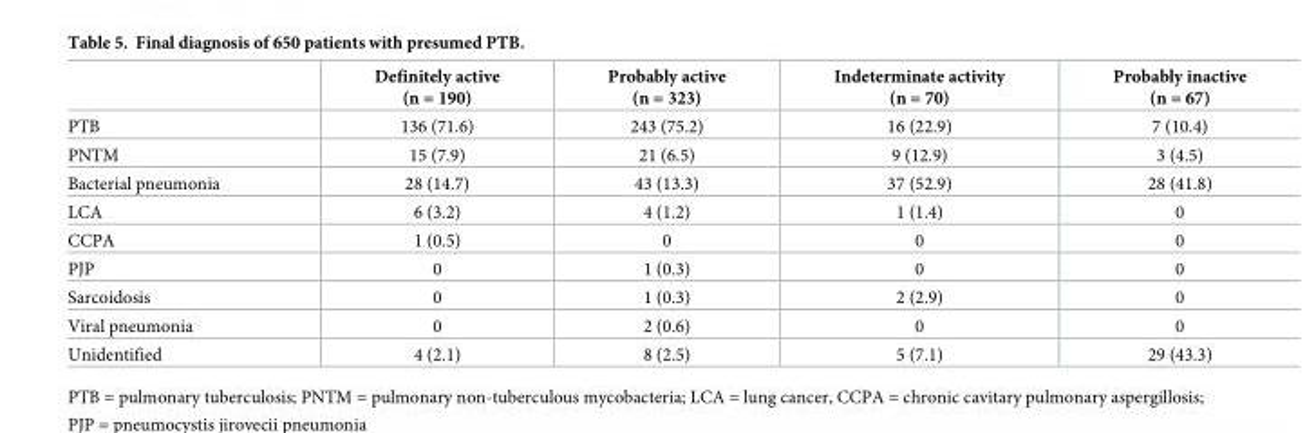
<table><thead><tr><td></td><td>Definitely active (n = 190)</td><td>Probably active (n = 323)</td><td>Indeterminate activity (n = 70)</td><td>Probably inactive (n = 67)</td></tr></thead><tbody><tr><td>PTB</td><td>136 (71.6)</td><td>243 (75.2)</td><td>16 (22.9)</td><td>7 (10.4)</td></tr><tr><td>PNTM</td><td>15 (7.9)</td><td>21 (6.5)</td><td>9 (12.9)</td><td>3 (4.5)</td></tr><tr><td>Bacterial pneumonia</td><td>28 (14.7)</td><td>43 (13.3)</td><td>37 (52.9)</td><td>28 (41.8)</td></tr><tr><td>LCA</td><td>6 (3.2)</td><td>4 (1.2)</td><td>1 (1.4)</td><td>0</td></tr><tr><td>CCPA</td><td>1 (0.5)</td><td>0</td><td>0</td><td>0</td></tr><tr><td>PJP</td><td>0</td><td>1 (0.3)</td><td>0</td><td>0</td></tr><tr><td>Sarcoidosis</td><td>0</td><td>1 (0.3)</td><td>2 (2.9)</td><td>0</td></tr><tr><td>Viral pneumonia</td><td>0</td><td>2 (0.6)</td><td>0</td><td>0</td></tr><tr><td>Unidentified</td><td>4 (2.1)</td><td>8 (2.5)</td><td>5 (7.1)</td><td>29 (43.3)</td></tr></tbody></table>